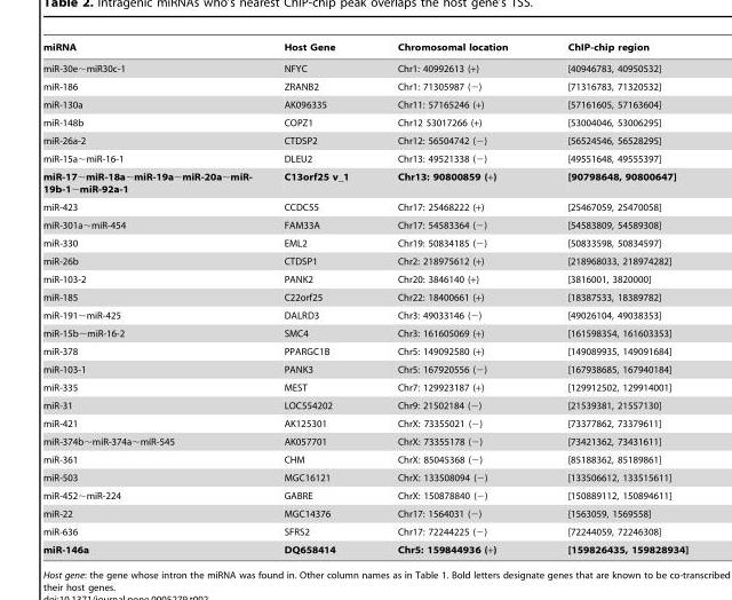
<table><thead><tr><td>miRNA</td><td>Host Gene</td><td>Chromosomal location</td><td>ChIP-chip region</td></tr></thead><tbody><tr><td>miR-30e∼miR30c-1</td><td>NFYC</td><td>Chr1: 40992613 (+)</td><td>[40946783, 40950532]</td></tr><tr><td>miR-186</td><td>ZRANB2</td><td>Chr1: 71305987 (−)</td><td>[71316783, 71320532]</td></tr><tr><td>miR-130a</td><td>AK096335</td><td>Chr11: 57165246 (+)</td><td>[57161605, 57163604]</td></tr><tr><td>miR-148b</td><td>COPZ1</td><td>Chr12 53017266 (+)</td><td>[53004046, 53006295]</td></tr><tr><td>miR-26a-2</td><td>CTDSP2</td><td>Chr12: 56504742 (−)</td><td>[56524546, 56528295]</td></tr><tr><td>miR-15a∼miR-16-1</td><td>DLEU2</td><td>Chr13: 49521338 (−)</td><td>[49551648, 49555397]</td></tr><tr><td>miR-17∼miR-18a∼miR-19a∼miR-20a∼miR- 19b-1∼miR-92a-1</td><td>C13orf25 v_1</td><td>Chr13: 90800859 (+)</td><td>[90798648, 90800647]</td></tr><tr><td>miR-423</td><td>CCDC55</td><td>Chr17: 25468222 (+)</td><td>[25467059, 25470058]</td></tr><tr><td>miR-301a∼miR-454</td><td>FAM33A</td><td>Chr17: 54583364 (−)</td><td>[54583809, 54589308]</td></tr><tr><td>miR-330</td><td>EML2</td><td>Chr19: 50834185 (−)</td><td>[50833598, 50834597]</td></tr><tr><td>miR-26b</td><td>CTDSP1</td><td>Chr2: 218975612 (+)</td><td>[218968033, 218974282]</td></tr><tr><td>miR-103-2</td><td>PANK2</td><td>Chr20: 3846140 (+)</td><td>[3816001, 3820000]</td></tr><tr><td>miR-185</td><td>C22orf25</td><td>Chr22: 18400661 (+)</td><td>[18387533, 18389782]</td></tr><tr><td>miR-191∼miR-425</td><td>DALRD3</td><td>Chr3: 49033146 (−)</td><td>[49026104, 49038353]</td></tr><tr><td>miR-15b∼miR-16-2</td><td>SMC4</td><td>Chr3: 161605069 (+)</td><td>[161598354, 161603353]</td></tr><tr><td>miR-378</td><td>PPARGC1B</td><td>Chr5: 149092580 (+)</td><td>[149089935, 149091684]</td></tr><tr><td>miR-103-1</td><td>PANK3</td><td>Chr5: 167920556 (−)</td><td>[167938685, 167940184]</td></tr><tr><td>miR-335</td><td>MEST</td><td>Chr7: 129923187 (+)</td><td>[129912502, 129914001]</td></tr><tr><td>miR-31</td><td>LOC554202</td><td>Chr9: 21502184 (−)</td><td>[21539381, 21557130]</td></tr><tr><td>miR-421</td><td>AK125301</td><td>ChrX: 73355021 (−)</td><td>[73377862, 73379611]</td></tr><tr><td>miR-374b∼miR-374a∼miR-545</td><td>AK057701</td><td>ChrX: 73355178 (−)</td><td>[73421362, 73431611]</td></tr><tr><td>miR-361</td><td>CHM</td><td>ChrX: 85045368 (−)</td><td>[85188362, 85189861]</td></tr><tr><td>miR-503</td><td>MGC16121</td><td>ChrX: 133508094 (−)</td><td>[133506612, 133515611]</td></tr><tr><td>miR-452∼miR-224</td><td>GABRE</td><td>ChrX: 150878840 (−)</td><td>[150889112, 150894611]</td></tr><tr><td>miR-22</td><td>MGC14376</td><td>Chr17: 1564031 (−)</td><td>[1563059, 1569558]</td></tr><tr><td>miR-636</td><td>SFRS2</td><td>Chr17: 72244225 (−)</td><td>[72244059, 72246308]</td></tr><tr><td>miR-146a</td><td>DQ658414</td><td>Chr5: 159844936 (+)</td><td>[159826435, 159828934]</td></tr></tbody></table>